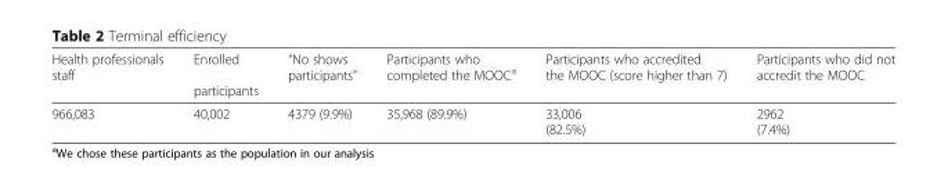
<table><thead><tr><td>Health professionals staff</td><td>Enrolled participants</td><td>“No shows participants”</td><td>Participants who completed the MOOC<sup>a</sup></td><td>Participants who accredited the MOOC (score higher than 7)</td><td>Participants who did not accredit the MOOC</td></tr></thead><tbody><tr><td>966,083</td><td>40,002</td><td>4379 (9.9%)</td><td>35,968 (89.9%)</td><td>33,006 (82.5%)</td><td>2962 (7.4%)</td></tr></tbody></table>